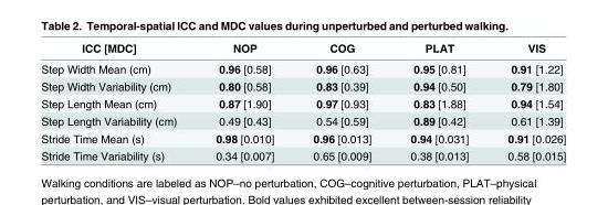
<table><thead><tr><td>ICC [MDC]</td><td>NOP</td><td>COG</td><td>PLAT</td><td>VIS</td></tr></thead><tbody><tr><td>Step Width Mean (cm)</td><td>0.96 [0.58]</td><td>0.96 [0.63]</td><td>0.95 [0.81]</td><td>0.91 [1.22]</td></tr><tr><td>Step Width Variability (cm)</td><td>0.80 [0.58]</td><td>0.83 [0.39]</td><td>0.94 [0.50]</td><td>0.79 [1.80]</td></tr><tr><td>Step Length Mean (cm)</td><td>0.87 [1.90]</td><td>0.97 [0.93]</td><td>0.83 [1.88]</td><td>0.94 [1.54]</td></tr><tr><td>Step Length Variability (cm)</td><td>0.49 [0.43]</td><td>0.54 [0.59]</td><td>0.89 [0.42]</td><td>0.61 [1.39]</td></tr><tr><td>Stride Time Mean (s)</td><td>0.98 [0.010]</td><td>0.96 [0.013]</td><td>0.94 [0.031]</td><td>0.91 [0.026]</td></tr><tr><td>Stride Time Variability (s)</td><td>0.34 [0.007]</td><td>0.65 [0.009]</td><td>0.38 [0.013]</td><td>0.58 [0.015]</td></tr></tbody></table>